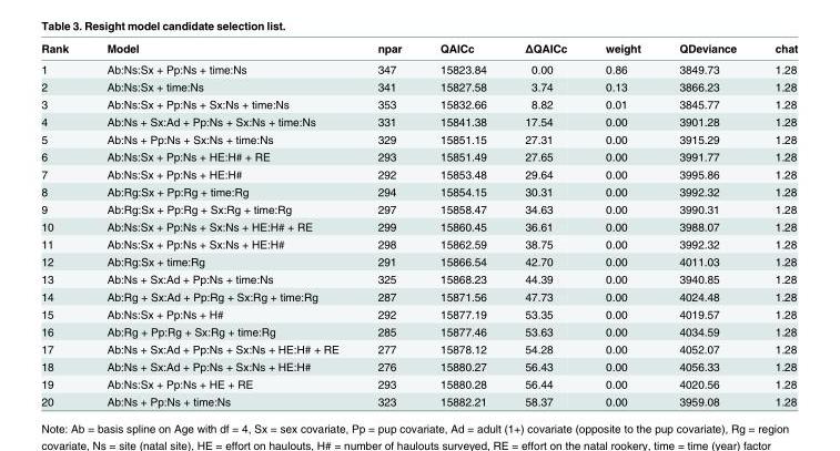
<table><thead><tr><td>Rank</td><td>Model</td><td>npar</td><td>QAICc</td><td>ΔQAICc</td><td>weight</td><td>QDeviance</td><td>chat</td></tr></thead><tbody><tr><td>1</td><td>Ab:Ns:Sx + Pp:Ns + time:Ns</td><td>347</td><td>15823.84</td><td>0.00</td><td>0.86</td><td>3849.73</td><td>1.28</td></tr><tr><td>2</td><td>Ab:Ns:Sx + time:Ns</td><td>341</td><td>15827.58</td><td>3.74</td><td>0.13</td><td>3866.23</td><td>1.28</td></tr><tr><td>3</td><td>Ab:Ns:Sx + Pp:Ns + Sx:Ns + time:Ns</td><td>353</td><td>15832.66</td><td>8.82</td><td>0.01</td><td>3845.77</td><td>1.28</td></tr><tr><td>4</td><td>Ab:Ns + Sx:Ad + Pp:Ns + Sx:Ns + time:Ns</td><td>331</td><td>15841.38</td><td>17.54</td><td>0.00</td><td>3901.28</td><td>1.28</td></tr><tr><td>5</td><td>Ab:Ns + Pp:Ns + Sx:Ns + time:Ns</td><td>329</td><td>15851.15</td><td>27.31</td><td>0.00</td><td>3915.29</td><td>1.28</td></tr><tr><td>6</td><td>Ab:Ns:Sx + Pp:Ns + HE:H# + RE</td><td>293</td><td>15851.49</td><td>27.65</td><td>0.00</td><td>3991.77</td><td>1.28</td></tr><tr><td>7</td><td>Ab:Ns:Sx + Pp:Ns + HE:H#</td><td>292</td><td>15853.48</td><td>29.64</td><td>0.00</td><td>3995.86</td><td>1.28</td></tr><tr><td>8</td><td>Ab:Rg:Sx + Pp:Rg + time:Rg</td><td>294</td><td>15854.15</td><td>30.31</td><td>0.00</td><td>3992.32</td><td>1.28</td></tr><tr><td>9</td><td>Ab:Rg:Sx + Pp:Rg + Sx:Rg + time:Rg</td><td>297</td><td>15858.47</td><td>34.63</td><td>0.00</td><td>3990.31</td><td>1.28</td></tr><tr><td>10</td><td>Ab:Ns:Sx + Pp:Ns + Sx:Ns + HE:H# + RE</td><td>299</td><td>15860.45</td><td>36.61</td><td>0.00</td><td>3988.07</td><td>1.28</td></tr><tr><td>11</td><td>Ab:Ns:Sx + Pp:Ns + Sx:Ns + HE:H#</td><td>298</td><td>15862.59</td><td>38.75</td><td>0.00</td><td>3992.32</td><td>1.28</td></tr><tr><td>12</td><td>Ab:Rg:Sx + time:Rg</td><td>291</td><td>15866.54</td><td>42.70</td><td>0.00</td><td>4011.03</td><td>1.28</td></tr><tr><td>13</td><td>Ab:Ns + Sx:Ad + Pp:Ns + time:Ns</td><td>325</td><td>15868.23</td><td>44.39</td><td>0.00</td><td>3940.85</td><td>1.28</td></tr><tr><td>14</td><td>Ab:Rg + Sx:Ad + Pp:Rg + Sx:Rg + time:Rg</td><td>287</td><td>15871.56</td><td>47.73</td><td>0.00</td><td>4024.48</td><td>1.28</td></tr><tr><td>15</td><td>Ab:Ns:Sx + Pp:Ns + H#</td><td>292</td><td>15877.19</td><td>53.35</td><td>0.00</td><td>4019.57</td><td>1.28</td></tr><tr><td>16</td><td>Ab:Rg + Pp:Rg + Sx:Rg + time:Rg</td><td>285</td><td>15877.46</td><td>53.63</td><td>0.00</td><td>4034.59</td><td>1.28</td></tr><tr><td>17</td><td>Ab:Ns + Sx:Ad + Pp:Ns + Sx:Ns + HE:H# + RE</td><td>277</td><td>15878.12</td><td>54.28</td><td>0.00</td><td>4052.07</td><td>1.28</td></tr><tr><td>18</td><td>Ab:Ns + Sx:Ad + Pp:Ns + Sx:Ns + HE:H#</td><td>276</td><td>15880.27</td><td>56.43</td><td>0.00</td><td>4056.33</td><td>1.28</td></tr><tr><td>19</td><td>Ab:Ns:Sx + Pp:Ns + HE + RE</td><td>293</td><td>15880.28</td><td>56.44</td><td>0.00</td><td>4020.56</td><td>1.28</td></tr><tr><td>20</td><td>Ab:Ns + Pp:Ns + time:Ns</td><td>323</td><td>15882.21</td><td>58.37</td><td>0.00</td><td>3959.08</td><td>1.28</td></tr></tbody></table>